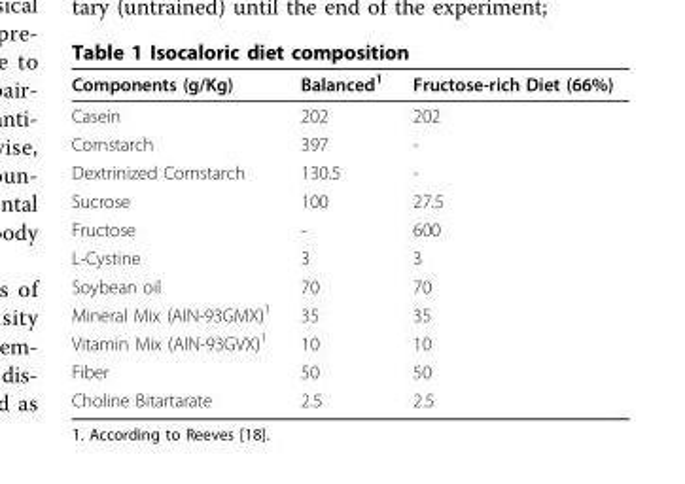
<table><thead><tr><td>Components (g/Kg)</td><td>Balanced<sup>1</sup></td><td>Fructose-rich Diet (66%)</td></tr></thead><tbody><tr><td>Casein</td><td>202</td><td>202</td></tr><tr><td>Cornstarch</td><td>397</td><td>-</td></tr><tr><td>Dextrinized Cornstarch</td><td>130.5</td><td>-</td></tr><tr><td>Sucrose</td><td>100</td><td>27.5</td></tr><tr><td>Fructose</td><td>-</td><td>600</td></tr><tr><td>L-Cystine</td><td>3</td><td>3</td></tr><tr><td>Soybean oil</td><td>70</td><td>70</td></tr><tr><td>Mineral Mix (AIN-93GMX)<sup>1</sup></td><td>35</td><td>35</td></tr><tr><td>Vitamin Mix (AIN-93GVX)<sup>1</sup></td><td>10</td><td>10</td></tr><tr><td>Fiber</td><td>50</td><td>50</td></tr><tr><td>Choline Bitartarate</td><td>2.5</td><td>2.5</td></tr></tbody></table>